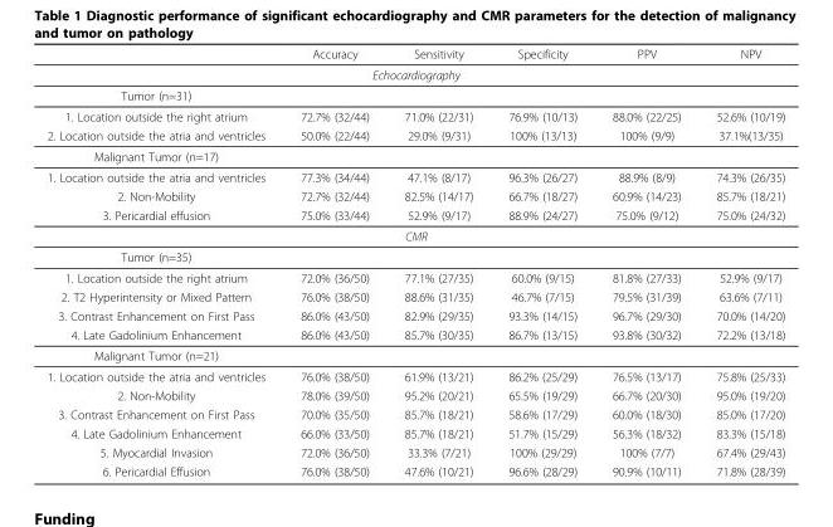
<table><thead><tr><td></td><td>Accuracy</td><td>Sensitivity</td><td>Specificity</td><td>PPV</td><td>NPV</td></tr></thead><tbody><tr><td colspan="6">Echocardiography</td></tr><tr><td colspan="6">Tumor (n=31)</td></tr><tr><td>1. Location outside the right atrium</td><td>72.7% (32/44)</td><td>71.0% (22/31)</td><td>76.9% (10/13)</td><td>88.0% (22/25)</td><td>52.6% (10/19)</td></tr><tr><td>2. Location outside the atria and ventricles</td><td>50.0% (22/44)</td><td>29.0% (9/31)</td><td>100% (13/13)</td><td>100% (9/9)</td><td>37.1%(13/35)</td></tr><tr><td colspan="6">Malignant Tumor (n=17)</td></tr><tr><td>1. Location outside the atria and ventricles</td><td>77.3% (34/44)</td><td>47.1% (8/17)</td><td>96.3% (26/27)</td><td>88.9% (8/9)</td><td>74.3% (26/35)</td></tr><tr><td>2. Non-Mobility</td><td>72.7% (32/44)</td><td>82.5% (14/17)</td><td>66.7% (18/27)</td><td>60.9% (14/23)</td><td>85.7% (18/21)</td></tr><tr><td>3. Pericardial effusion</td><td>75.0% (33/44)</td><td>52.9% (9/17)</td><td>88.9% (24/27)</td><td>75.0% (9/12)</td><td>75.0% (24/32)</td></tr><tr><td colspan="6">CMR</td></tr><tr><td colspan="6">Tumor (n=35)</td></tr><tr><td>1. Location outside the right atrium</td><td>72.0% (36/50)</td><td>77.1% (27/35)</td><td>60.0% (9/15)</td><td>81.8% (27/33)</td><td>52.9% (9/17)</td></tr><tr><td>2. T2 Hyperintensity or Mixed Pattern</td><td>76.0% (38/50)</td><td>88.6% (31/35)</td><td>46.7% (7/15)</td><td>79.5% (31/39)</td><td>63.6% (7/11)</td></tr><tr><td>3. Contrast Enhancement on First Pass</td><td>86.0% (43/50)</td><td>82.9% (29/35)</td><td>93.3% (14/15)</td><td>96.7% (29/30)</td><td>70.0% (14/20)</td></tr><tr><td>4. Late Gadolinium Enhancement</td><td>86.0% (43/50)</td><td>85.7% (30/35)</td><td>86.7% (13/15)</td><td>93.8% (30/32)</td><td>72.2% (13/18)</td></tr><tr><td colspan="6">Malignant Tumor (n=21)</td></tr><tr><td>1. Location outside the atria and ventricles</td><td>76.0% (38/50)</td><td>61.9% (13/21)</td><td>86.2% (25/29)</td><td>76.5% (13/17)</td><td>75.8% (25/33)</td></tr><tr><td>2. Non-Mobility</td><td>78.0% (39/50)</td><td>95.2% (20/21)</td><td>65.5% (19/29)</td><td>66.7% (20/30)</td><td>95.0% (19/20)</td></tr><tr><td>3. Contrast Enhancement on First Pass</td><td>70.0% (35/50)</td><td>85.7% (18/21)</td><td>58.6% (17/29)</td><td>60.0% (18/30)</td><td>85.0% (17/20)</td></tr><tr><td>4. Late Gadolinium Enhancement</td><td>66.0% (33/50)</td><td>85.7% (18/21)</td><td>51.7% (15/29)</td><td>56.3% (18/32)</td><td>83.3% (15/18)</td></tr><tr><td>5. Myocardial Invasion</td><td>72.0% (36/50)</td><td>33.3% (7/21)</td><td>100% (29/29)</td><td>100% (7/7)</td><td>67.4% (29/43)</td></tr><tr><td>6. Pericardial Effusion</td><td>76.0% (38/50)</td><td>47.6% (10/21)</td><td>96.6% (28/29)</td><td>90.9% (10/11)</td><td>71.8% (28/39)</td></tr></tbody></table>